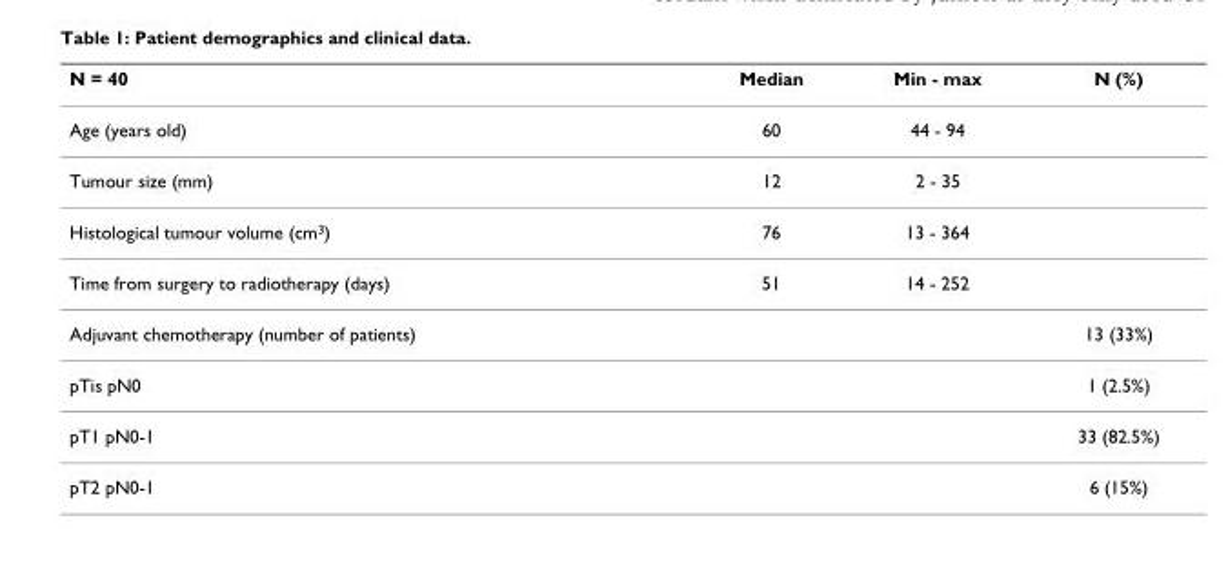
<table><thead><tr><td>N = 40</td><td>Median</td><td>Min - max</td><td>N (%)</td></tr></thead><tbody><tr><td>Age (years old)</td><td>60</td><td>44 - 94</td><td></td></tr><tr><td>Tumour size (mm)</td><td>12</td><td>2 - 35</td><td></td></tr><tr><td>Histological tumour volume (cm<sup>3</sup>)</td><td>76</td><td>13 - 364</td><td></td></tr><tr><td>Time from surgery to radiotherapy (days)</td><td>51</td><td>14 - 252</td><td></td></tr><tr><td>Adjuvant chemotherapy (number of patients)</td><td></td><td></td><td>13 (33%)</td></tr><tr><td>pTis pN0</td><td></td><td></td><td>1 (2.5%)</td></tr><tr><td>pT1 pN0-1</td><td></td><td></td><td>33 (82.5%)</td></tr><tr><td>pT2 pN0-1</td><td></td><td></td><td>6 (15%)</td></tr></tbody></table>